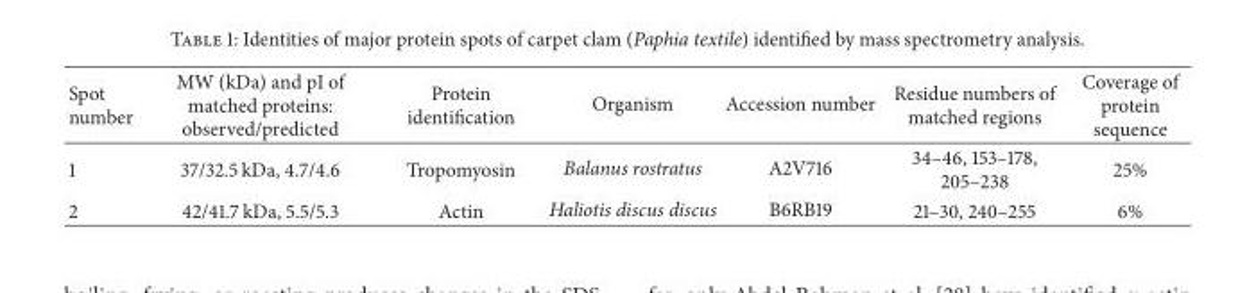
<table><thead><tr><td>Spot number</td><td>MW (kDa) and pI of matched proteins: observed/predicted</td><td>Protein identification</td><td>Organism</td><td>Accession number</td><td>Residue numbers of matched regions</td><td>Coverage of protein sequence</td></tr></thead><tbody><tr><td>1</td><td>37/32.5 kDa, 4.7/4.6</td><td>Tropomyosin</td><td>Balanus rostratus</td><td>A2V716</td><td>34–46, 153–178, 205–238</td><td>25%</td></tr><tr><td>2</td><td>42/41.7 kDa, 5.5/5.3</td><td>Actin</td><td>Haliotis discus discus</td><td>B6RB19</td><td>21–30, 240–255</td><td>6%</td></tr></tbody></table>